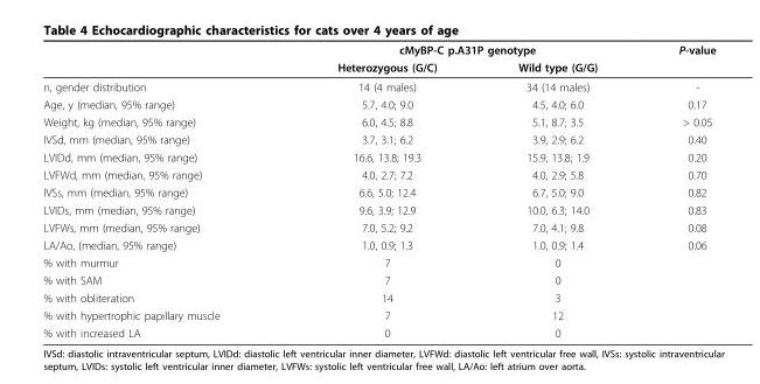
<table><thead><tr><td rowspan="2"></td><td colspan="2">cMyBP-C p.A31P genotype</td><td rowspan="2">P-value</td></tr><tr><td>Heterozygous (G/C)</td><td>Wild type (G/G)</td></tr></thead><tbody><tr><td>n, gender distribution</td><td>14 (4 males)</td><td>34 (14 males)</td><td>-</td></tr><tr><td>Age, y (median, 95% range)</td><td>5.7, 4.0; 9.0</td><td>4.5, 4.0; 6.0</td><td>0.17</td></tr><tr><td>Weight, kg (median, 95% range)</td><td>6.0, 4.5; 8.8</td><td>5.1, 8.7; 3.5</td><td>&gt; 0.05</td></tr><tr><td>IVSd, mm (median, 95% range)</td><td>3.7, 3.1; 6.2</td><td>3.9, 2.9; 6.2</td><td>0.40</td></tr><tr><td>LVIDd, mm (median, 95% range)</td><td>16.6, 13.8; 19.3</td><td>15.9, 13.8; 1.9</td><td>0.20</td></tr><tr><td>LVFWd, mm (median, 95% range)</td><td>4.0, 2.7; 7.2</td><td>4.0, 2.9; 5.8</td><td>0.70</td></tr><tr><td>IVSs, mm (median, 95% range)</td><td>6.6, 5.0; 12.4</td><td>6.7, 5.0; 9.0</td><td>0.82</td></tr><tr><td>LVIDs, mm (median, 95% range)</td><td>9.6, 3.9; 12.9</td><td>10.0, 6.3; 14.0</td><td>0.83</td></tr><tr><td>LVFWs, mm (median, 95% range)</td><td>7.0, 5.2; 9.2</td><td>7.0, 4.1; 9.8</td><td>0.08</td></tr><tr><td>LA/Ao, (median, 95% range)</td><td>1.0, 0.9; 1.3</td><td>1.0, 0.9; 1.4</td><td>0.06</td></tr><tr><td>% with murmur</td><td>7</td><td>0</td><td></td></tr><tr><td>% with SAM</td><td>7</td><td>0</td><td></td></tr><tr><td>% with obliteration</td><td>14</td><td>3</td><td></td></tr><tr><td>% with hypertrophic papillary muscle</td><td>7</td><td>12</td><td></td></tr><tr><td>% with increased LA</td><td>0</td><td>0</td><td></td></tr></tbody></table>